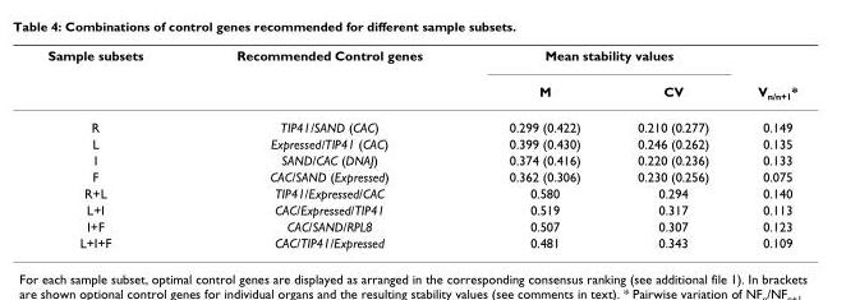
<table><thead><tr><td rowspan="2">Sample subsets</td><td rowspan="2">Recommended Control genes</td><td colspan="2">Mean stability values</td><td rowspan="2">V<sub>n/n+1</sub>*</td></tr><tr><td>M</td><td>CV</td></tr></thead><tbody><tr><td>R</td><td>TIP41/SAND (CAC)</td><td>0.299 (0.422)</td><td>0.210 (0.277)</td><td>0.149</td></tr><tr><td>L</td><td>Expressed/TIP41 (CAC)</td><td>0.399 (0.430)</td><td>0.246 (0.262)</td><td>0.135</td></tr><tr><td>I</td><td>SAND/CAC (DNAJ)</td><td>0.374 (0.416)</td><td>0.220 (0.236)</td><td>0.133</td></tr><tr><td>F</td><td>CAC/SAND (Expressed)</td><td>0.362 (0.306)</td><td>0.230 (0.256)</td><td>0.075</td></tr><tr><td>R+L</td><td>TIP41/Expressed/CAC</td><td>0.580</td><td>0.294</td><td>0.140</td></tr><tr><td>L+I</td><td>CAC/Expressed/TIP41</td><td>0.519</td><td>0.317</td><td>0.113</td></tr><tr><td>I+F</td><td>CAC/SAND/RPL8</td><td>0.507</td><td>0.307</td><td>0.123</td></tr><tr><td>L+I+F</td><td>CAC/TIP41/Expressed</td><td>0.481</td><td>0.343</td><td>0.109</td></tr></tbody></table>